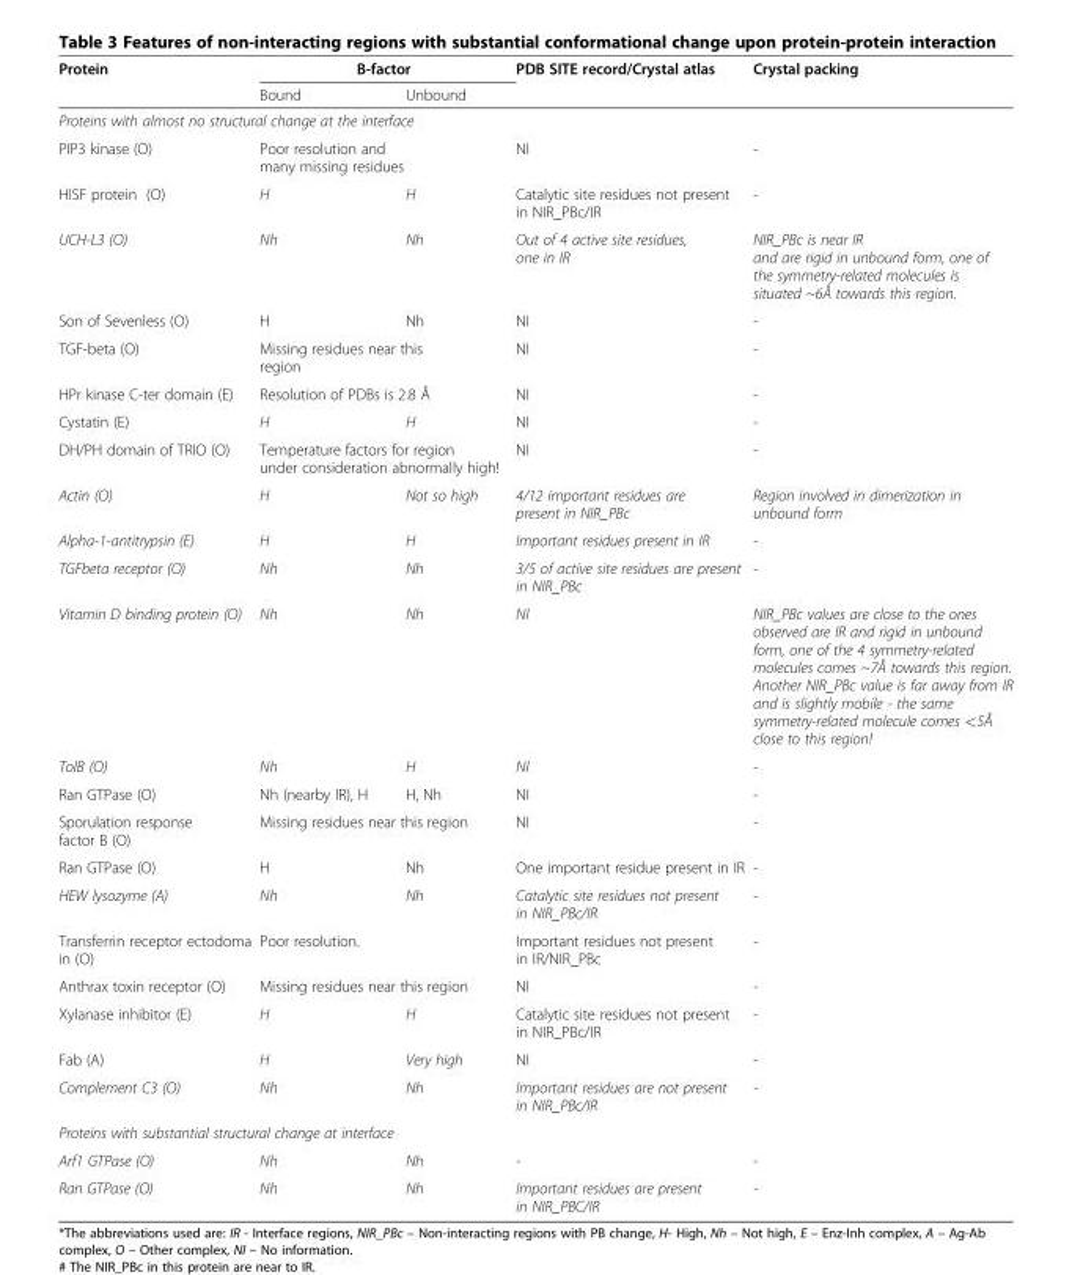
<table><tbody><tr><td rowspan="2">Protein</td><td colspan="2">B-factor</td><td rowspan="2">PDB SITE record/Crystal atlas</td><td rowspan="2">Crystal packing</td></tr><tr><td>Bound</td><td>Unbound</td></tr><tr><td colspan="5">Proteins with almost no structural change at the interface</td></tr><tr><td>PIP3 kinase (O)</td><td colspan="2">Poor resolution and many missing residues</td><td>NI</td><td>-</td></tr><tr><td>HISF protein (O)</td><td>H</td><td>H</td><td>Catalytic site residues not present in NIR_PBc/IR</td><td>-</td></tr><tr><td>UCH-L3 (O)</td><td>Nh</td><td>Nh</td><td>Out of 4 active site residues, one in IR</td><td>NIR_PBc is near IR and are rigid in unbound form, one of the symmetry-related molecules is situated ~6Å towards this region.</td></tr><tr><td>Son of Sevenless (O)</td><td>H</td><td>Nh</td><td>NI</td><td>-</td></tr><tr><td>TGF-beta (O)</td><td colspan="2">Missing residues near this region</td><td>NI</td><td>-</td></tr><tr><td>HPr kinase C-ter domain (E)</td><td colspan="2">Resolution of PDBs is 2.8 Å</td><td>NI</td><td>-</td></tr><tr><td>Cystatin (E)</td><td>H</td><td>H</td><td>NI</td><td>-</td></tr><tr><td>DH/PH domain of TRIO (O)</td><td colspan="2">Temperature factors for region under consideration abnormally high!</td><td>NI</td><td>-</td></tr><tr><td>Actin (O)</td><td>H</td><td>Not so high</td><td>4/12 important residues are present in NIR_PBc</td><td>Region involved in dimerization in unbound form</td></tr><tr><td>Alpha-1-antitrypsin (E)</td><td>H</td><td>H</td><td>Important residues present in IR</td><td>-</td></tr><tr><td>TGFbeta receptor (O)</td><td>Nh</td><td>Nh</td><td>3/5 of active site residues are present in NIR_PBc</td><td>-</td></tr><tr><td>Vitamin D binding protein (O)</td><td>Nh</td><td>Nh</td><td>NI</td><td>NIR_PBc values are close to the ones observed are IR and rigid in unbound form, one of the 4 symmetry-related molecules comes ~7Å towards this region. Another NIR_PBc value is far away from IR and is slightly mobile - the same symmetry-related molecule comes &lt;5Å close to this region!</td></tr><tr><td>TolB (O)</td><td>Nh</td><td>H</td><td>NI</td><td>-</td></tr><tr><td>Ran GTPase (O)</td><td>Nh (nearby IR), H</td><td>H, Nh</td><td>NI</td><td>-</td></tr><tr><td>Sporulation response factor B (O)</td><td colspan="2">Missing residues near this region</td><td>NI</td><td>-</td></tr><tr><td>Ran GTPase (O)</td><td>H</td><td>Nh</td><td>One important residue present in IR</td><td>-</td></tr><tr><td>HEW lysozyme (A)</td><td>Nh</td><td>Nh</td><td>Catalytic site residues not present in NIR_PBc/IR</td><td>-</td></tr><tr><td>Transferrin receptor ectodoma in (O)</td><td colspan="2">Poor resolution.</td><td>Important residues not present in IR/NIR_PBc</td><td>-</td></tr><tr><td>Anthrax toxin receptor (O)</td><td colspan="2">Missing residues near this region</td><td>NI</td><td>-</td></tr><tr><td>Xylanase inhibitor (E)</td><td>H</td><td>H</td><td>Catalytic site residues not present in NIR_PBc/IR</td><td>-</td></tr><tr><td>Fab (A)</td><td>H</td><td>Very high</td><td>NI</td><td>-</td></tr><tr><td>Complement C3 (O)</td><td>Nh</td><td>Nh</td><td>Important residues are not present in NIR_PBc/IR</td><td>-</td></tr><tr><td colspan="5">Proteins with substantial structural change at interface</td></tr><tr><td>Arf1 GTPase (O)</td><td>Nh</td><td>Nh</td><td>-</td><td>-</td></tr><tr><td>Ran GTPase (O)</td><td>Nh</td><td>Nh</td><td>Important residues are present in NIR_PBC/IR</td><td>-</td></tr></tbody></table>